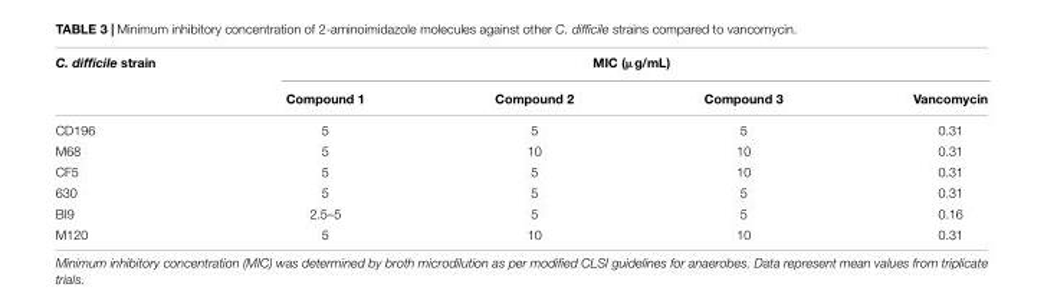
<table><thead><tr><td rowspan="2">C. difficile strain</td><td colspan="4">MIC (µg/mL)</td></tr><tr><td>Compound 1</td><td>Compound 2</td><td>Compound 3</td><td>Vancomycin</td></tr></thead><tbody><tr><td>CD196</td><td>5</td><td>5</td><td>5</td><td>0.31</td></tr><tr><td>M68</td><td>5</td><td>10</td><td>10</td><td>0.31</td></tr><tr><td>CF5</td><td>5</td><td>5</td><td>10</td><td>0.31</td></tr><tr><td>630</td><td>5</td><td>5</td><td>5</td><td>0.31</td></tr><tr><td>BI9</td><td>2.5–5</td><td>5</td><td>5</td><td>0.16</td></tr><tr><td>M120</td><td>5</td><td>10</td><td>10</td><td>0.31</td></tr></tbody></table>